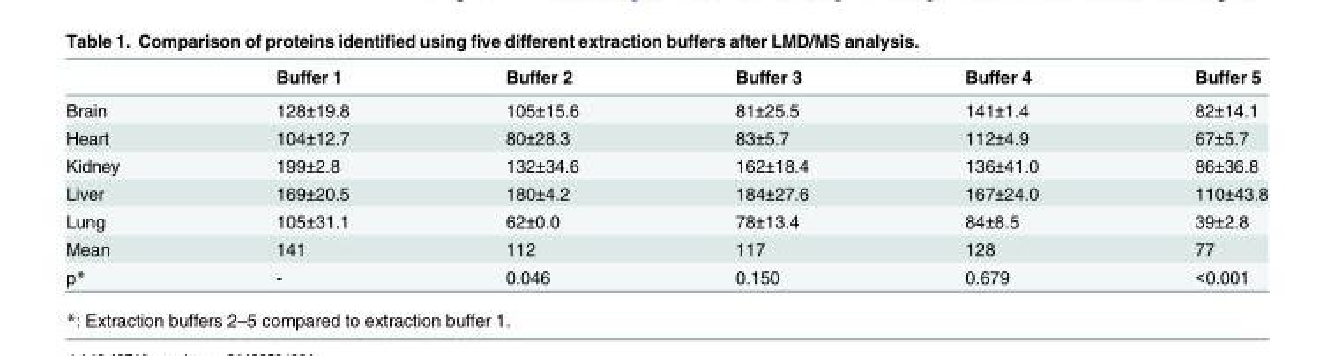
<table><thead><tr><td></td><td>Buffer 1</td><td>Buffer 2</td><td>Buffer 3</td><td>Buffer 4</td><td>Buffer 5</td></tr></thead><tbody><tr><td>Brain</td><td>128±19.8</td><td>105±15.6</td><td>81±25.5</td><td>141±1.4</td><td>82±14.1</td></tr><tr><td>Heart</td><td>104±12.7</td><td>80±28.3</td><td>83±5.7</td><td>112±4.9</td><td>67±5.7</td></tr><tr><td>Kidney</td><td>199±2.8</td><td>132±34.6</td><td>162±18.4</td><td>136±41.0</td><td>86±36.8</td></tr><tr><td>Liver</td><td>169±20.5</td><td>180±4.2</td><td>184±27.6</td><td>167±24.0</td><td>110±43.8</td></tr><tr><td>Lung</td><td>105±31.1</td><td>62±0.0</td><td>78±13.4</td><td>84±8.5</td><td>39±2.8</td></tr><tr><td>Mean</td><td>141</td><td>112</td><td>117</td><td>128</td><td>77</td></tr><tr><td>p*</td><td>-</td><td>0.046</td><td>0.150</td><td>0.679</td><td>&lt;0.001</td></tr></tbody></table>